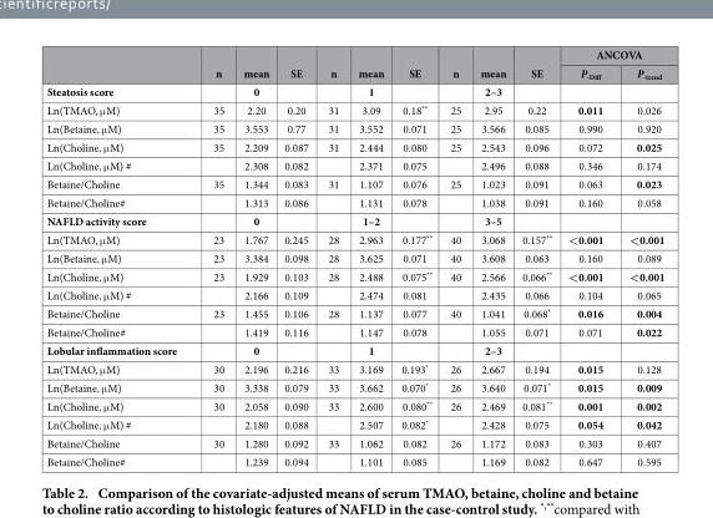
<table><thead><tr><td rowspan="2"></td><td rowspan="2">n</td><td rowspan="2">mean</td><td rowspan="2">SE</td><td rowspan="2">n</td><td rowspan="2">mean</td><td rowspan="2">SE</td><td rowspan="2">n</td><td rowspan="2">mean</td><td rowspan="2">SE</td><td colspan="2">ANCOVA</td></tr><tr><td>P<sub>-Diff</sub></td><td>P<sub>-trend</sub></td></tr></thead><tbody><tr><td>Steatosis score</td><td></td><td>0</td><td></td><td></td><td>1</td><td></td><td></td><td>2–3</td><td></td><td></td><td></td></tr><tr><td>Ln(TMAO, μ M)</td><td>35</td><td>2.20</td><td>0.20</td><td>31</td><td>3.09</td><td>0.18**</td><td>25</td><td>2.95</td><td>0.22</td><td>0.011</td><td>0.026</td></tr><tr><td>Ln(Betaine, μ M)</td><td>35</td><td>3.553</td><td>0.77</td><td>31</td><td>3.552</td><td>0.071</td><td>25</td><td>3.566</td><td>0.085</td><td>0.990</td><td>0.920</td></tr><tr><td>Ln(Choline, μ M)</td><td>35</td><td>2.209</td><td>0.087</td><td>31</td><td>2.444</td><td>0.080</td><td>25</td><td>2.543</td><td>0.096</td><td>0.072</td><td>0.025</td></tr><tr><td>Ln(Choline, μ M) #</td><td></td><td>2.308</td><td>0.082</td><td></td><td>2.371</td><td>0.075</td><td></td><td>2.496</td><td>0.088</td><td>0.346</td><td>0.174</td></tr><tr><td>Betaine/Choline</td><td>35</td><td>1.344</td><td>0.083</td><td>31</td><td>1.107</td><td>0.076</td><td>25</td><td>1.023</td><td>0.091</td><td>0.063</td><td>0.023</td></tr><tr><td>Betaine/Choline#</td><td></td><td>1.313</td><td>0.086</td><td></td><td>1.131</td><td>0.078</td><td></td><td>1.038</td><td>0.091</td><td>0.160</td><td>0.058</td></tr><tr><td>NAFLD activity score</td><td></td><td>0</td><td></td><td></td><td>1–2</td><td></td><td></td><td>3–5</td><td></td><td></td><td></td></tr><tr><td>Ln(TMAO, μ M)</td><td>23</td><td>1.767</td><td>0.245</td><td>28</td><td>2.963</td><td>0.177**</td><td>40</td><td>3.068</td><td>0.157**</td><td>&lt;0.001</td><td>&lt;0.001</td></tr><tr><td>Ln(Betaine, μ M)</td><td>23</td><td>3.384</td><td>0.098</td><td>28</td><td>3.625</td><td>0.071</td><td>40</td><td>3.608</td><td>0.063</td><td>0.160</td><td>0.089</td></tr><tr><td>Ln(Choline, μ M)</td><td>23</td><td>1.929</td><td>0.103</td><td>28</td><td>2.488</td><td>0.075**</td><td>40</td><td>2.566</td><td>0.066**</td><td>&lt;0.001</td><td>&lt;0.001</td></tr><tr><td>Ln(Choline, μ M) #</td><td></td><td>2.166</td><td>0.109</td><td></td><td>2.474</td><td>0.081</td><td></td><td>2.435</td><td>0.066</td><td>0.104</td><td>0.065</td></tr><tr><td>Betaine/Choline</td><td>23</td><td>1.455</td><td>0.106</td><td>28</td><td>1.137</td><td>0.077</td><td>40</td><td>1.041</td><td>0.068*</td><td>0.016</td><td>0.004</td></tr><tr><td>Betaine/Choline#</td><td></td><td>1.419</td><td>0.116</td><td></td><td>1.147</td><td>0.078</td><td></td><td>1.055</td><td>0.071</td><td>0.071</td><td>0.022</td></tr><tr><td>Lobular inflammation score</td><td></td><td>0</td><td></td><td></td><td>1</td><td></td><td></td><td>2–3</td><td></td><td></td><td></td></tr><tr><td>Ln(TMAO, μ M)</td><td>30</td><td>2.196</td><td>0.216</td><td>33</td><td>3.169</td><td>0.193*</td><td>26</td><td>2.667</td><td>0.194</td><td>0.015</td><td>0.128</td></tr><tr><td>Ln(Betaine, μ M)</td><td>30</td><td>3.338</td><td>0.079</td><td>33</td><td>3.662</td><td>0.070*</td><td>26</td><td>3.640</td><td>0.071*</td><td>0.015</td><td>0.009</td></tr><tr><td>Ln(Choline, μ M)</td><td>30</td><td>2.058</td><td>0.090</td><td>33</td><td>2.600</td><td>0.080**</td><td>26</td><td>2.469</td><td>0.081**</td><td>0.001</td><td>0.002</td></tr><tr><td>Ln(Choline, μ M) #</td><td></td><td>2.180</td><td>0.088</td><td></td><td>2.507</td><td>0.082*</td><td></td><td>2.428</td><td>0.075</td><td>0.054</td><td>0.042</td></tr><tr><td>Betaine/Choline</td><td>30</td><td>1.280</td><td>0.092</td><td>33</td><td>1.062</td><td>0.082</td><td>26</td><td>1.172</td><td>0.083</td><td>0.303</td><td>0.407</td></tr><tr><td>Betaine/Choline#</td><td></td><td>1.239</td><td>0.094</td><td></td><td>1.101</td><td>0.085</td><td></td><td>1.169</td><td>0.082</td><td>0.647</td><td>0.595</td></tr></tbody></table>